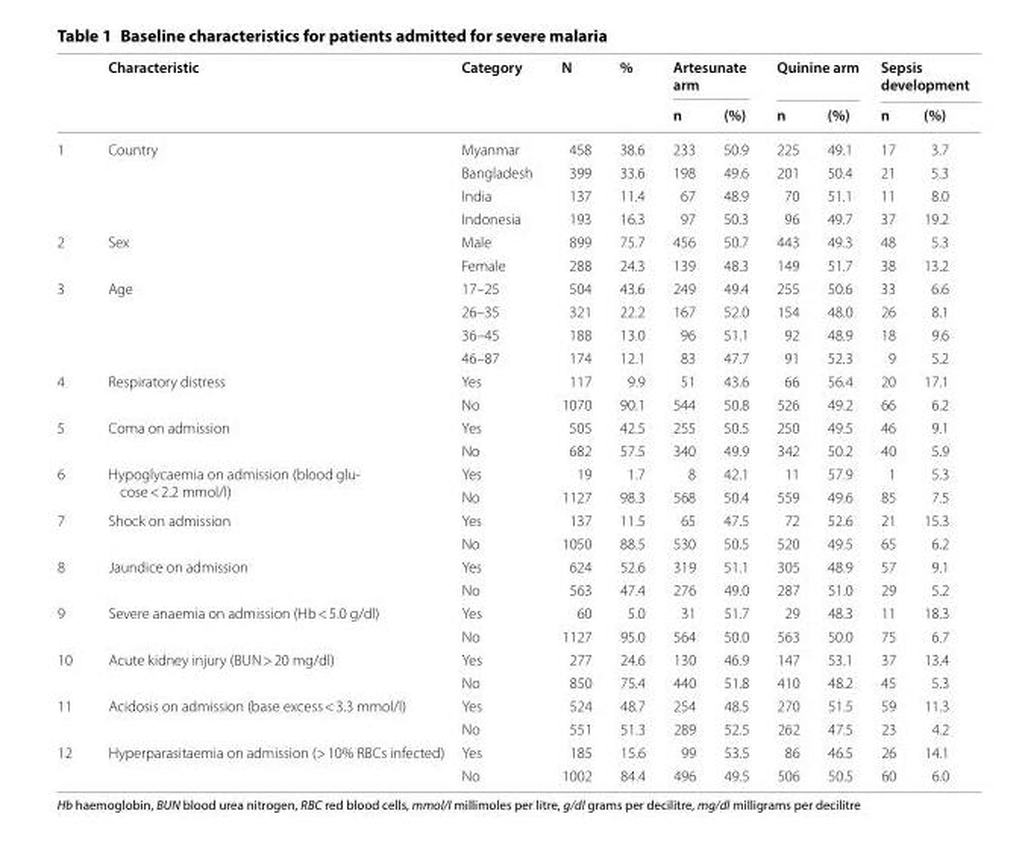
<table><thead><tr><td rowspan="2"></td><td rowspan="2">Characteristic</td><td rowspan="2">Category</td><td rowspan="2">N</td><td rowspan="2">%</td><td colspan="2">Artesunate arm</td><td colspan="2">Quinine arm</td><td colspan="2">Sepsis development</td></tr><tr><td>n</td><td>(%)</td><td>n</td><td>(%)</td><td>n</td><td>(%)</td></tr></thead><tbody><tr><td rowspan="4">1</td><td rowspan="4">Country</td><td>Myanmar</td><td>458</td><td>38.6</td><td>233</td><td>50.9</td><td>225</td><td>49.1</td><td>17</td><td>3.7</td></tr><tr><td>Bangladesh</td><td>399</td><td>33.6</td><td>198</td><td>49.6</td><td>201</td><td>50.4</td><td>21</td><td>5.3</td></tr><tr><td>India</td><td>137</td><td>11.4</td><td>67</td><td>48.9</td><td>70</td><td>51.1</td><td>11</td><td>8.0</td></tr><tr><td>Indonesia</td><td>193</td><td>16.3</td><td>97</td><td>50.3</td><td>96</td><td>49.7</td><td>37</td><td>19.2</td></tr><tr><td rowspan="2">2</td><td rowspan="2">Sex</td><td>Male</td><td>899</td><td>75.7</td><td>456</td><td>50.7</td><td>443</td><td>49.3</td><td>48</td><td>5.3</td></tr><tr><td>Female</td><td>288</td><td>24.3</td><td>139</td><td>48.3</td><td>149</td><td>51.7</td><td>38</td><td>13.2</td></tr><tr><td rowspan="4">3</td><td rowspan="4">Age</td><td>17–25</td><td>504</td><td>43.6</td><td>249</td><td>49.4</td><td>255</td><td>50.6</td><td>33</td><td>6.6</td></tr><tr><td>26–35</td><td>321</td><td>22.2</td><td>167</td><td>52.0</td><td>154</td><td>48.0</td><td>26</td><td>8.1</td></tr><tr><td>36–45</td><td>188</td><td>13.0</td><td>96</td><td>51.1</td><td>92</td><td>48.9</td><td>18</td><td>9.6</td></tr><tr><td>46–87</td><td>174</td><td>12.1</td><td>83</td><td>47.7</td><td>91</td><td>52.3</td><td>9</td><td>5.2</td></tr><tr><td rowspan="2">4</td><td rowspan="2">Respiratory distress</td><td>Yes</td><td>117</td><td>9.9</td><td>51</td><td>43.6</td><td>66</td><td>56.4</td><td>20</td><td>17.1</td></tr><tr><td>No</td><td>1070</td><td>90.1</td><td>544</td><td>50.8</td><td>526</td><td>49.2</td><td>66</td><td>6.2</td></tr><tr><td rowspan="2">5</td><td rowspan="2">Coma on admission</td><td>Yes</td><td>505</td><td>42.5</td><td>255</td><td>50.5</td><td>250</td><td>49.5</td><td>46</td><td>9.1</td></tr><tr><td>No</td><td>682</td><td>57.5</td><td>340</td><td>49.9</td><td>342</td><td>50.2</td><td>40</td><td>5.9</td></tr><tr><td rowspan="2">6</td><td rowspan="2">Hypoglycaemia on admission (blood glu- cose &lt; 2.2 mmol/l)</td><td>Yes</td><td>19</td><td>1.7</td><td>8</td><td>42.1</td><td>11</td><td>57.9</td><td>1</td><td>5.3</td></tr><tr><td>No</td><td>1127</td><td>98.3</td><td>568</td><td>50.4</td><td>559</td><td>49.6</td><td>85</td><td>7.5</td></tr><tr><td rowspan="2">7</td><td rowspan="2">Shock on admission</td><td>Yes</td><td>137</td><td>11.5</td><td>65</td><td>47.5</td><td>72</td><td>52.6</td><td>21</td><td>15.3</td></tr><tr><td>No</td><td>1050</td><td>88.5</td><td>530</td><td>50.5</td><td>520</td><td>49.5</td><td>65</td><td>6.2</td></tr><tr><td rowspan="2">8</td><td rowspan="2">Jaundice on admission</td><td>Yes</td><td>624</td><td>52.6</td><td>319</td><td>51.1</td><td>305</td><td>48.9</td><td>57</td><td>9.1</td></tr><tr><td>No</td><td>563</td><td>47.4</td><td>276</td><td>49.0</td><td>287</td><td>51.0</td><td>29</td><td>5.2</td></tr><tr><td rowspan="2">9</td><td rowspan="2">Severe anaemia on admission (Hb &lt; 5.0 g/dl)</td><td>Yes</td><td>60</td><td>5.0</td><td>31</td><td>51.7</td><td>29</td><td>48.3</td><td>11</td><td>18.3</td></tr><tr><td>No</td><td>1127</td><td>95.0</td><td>564</td><td>50.0</td><td>563</td><td>50.0</td><td>75</td><td>6.7</td></tr><tr><td rowspan="2">10</td><td rowspan="2">Acute kidney injury (BUN &gt; 20 mg/dl)</td><td>Yes</td><td>277</td><td>24.6</td><td>130</td><td>46.9</td><td>147</td><td>53.1</td><td>37</td><td>13.4</td></tr><tr><td>No</td><td>850</td><td>75.4</td><td>440</td><td>51.8</td><td>410</td><td>48.2</td><td>45</td><td>5.3</td></tr><tr><td rowspan="2">11</td><td rowspan="2">Acidosis on admission (base excess &lt; 3.3 mmol/l)</td><td>Yes</td><td>524</td><td>48.7</td><td>254</td><td>48.5</td><td>270</td><td>51.5</td><td>59</td><td>11.3</td></tr><tr><td>No</td><td>551</td><td>51.3</td><td>289</td><td>52.5</td><td>262</td><td>47.5</td><td>23</td><td>4.2</td></tr><tr><td rowspan="2">12</td><td rowspan="2">Hyperparasitaemia on admission (&gt; 10% RBCs infected)</td><td>Yes</td><td>185</td><td>15.6</td><td>99</td><td>53.5</td><td>86</td><td>46.5</td><td>26</td><td>14.1</td></tr><tr><td>No</td><td>1002</td><td>84.4</td><td>496</td><td>49.5</td><td>506</td><td>50.5</td><td>60</td><td>6.0</td></tr></tbody></table>